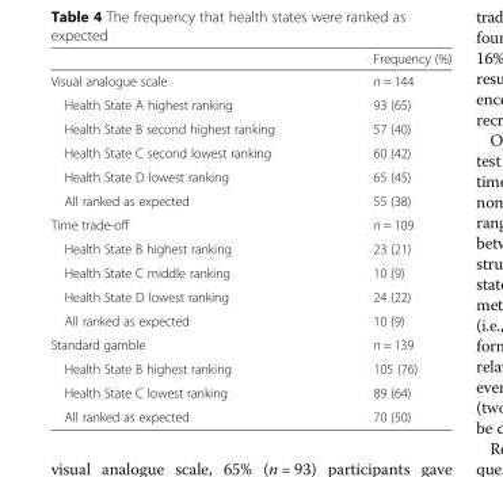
<table><thead><tr><td></td><td>Frequency (%)</td></tr></thead><tbody><tr><td>Visual analogue scale</td><td>n = 144</td></tr><tr><td>Health State A highest ranking</td><td>93 (65)</td></tr><tr><td>Health State B second highest ranking</td><td>57 (40)</td></tr><tr><td>Health State C second lowest ranking</td><td>60 (42)</td></tr><tr><td>Health State D lowest ranking</td><td>65 (45)</td></tr><tr><td>All ranked as expected</td><td>55 (38)</td></tr><tr><td>Time trade-off</td><td>n = 109</td></tr><tr><td>Health State B highest ranking</td><td>23 (21)</td></tr><tr><td>Health State C middle ranking</td><td>10 (9)</td></tr><tr><td>Health State D lowest ranking</td><td>24 (22)</td></tr><tr><td>All ranked as expected</td><td>10 (9)</td></tr><tr><td>Standard gamble</td><td>n = 139</td></tr><tr><td>Health State B highest ranking</td><td>105 (76)</td></tr><tr><td>Health State C lowest ranking</td><td>89 (64)</td></tr><tr><td>All ranked as expected</td><td>70 (50)</td></tr></tbody></table>